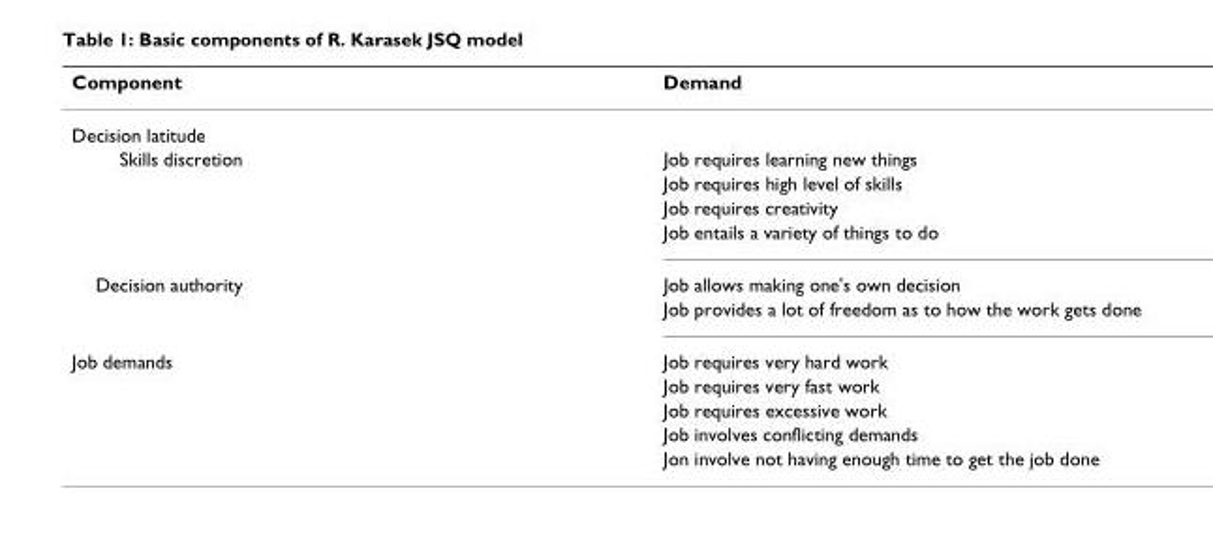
<table><thead><tr><td>Component</td><td>Demand</td></tr></thead><tbody><tr><td colspan="2">Decision latitude</td></tr><tr><td rowspan="4">Skills discretion</td><td>Job requires learning new things</td></tr><tr><td>Job requires high level of skills</td></tr><tr><td>Job requires creativity</td></tr><tr><td>Job entails a variety of things to do</td></tr><tr><td rowspan="2">Decision authority</td><td>Job allows making one&#x27;s own decision</td></tr><tr><td>Job provides a lot of freedom as to how the work gets done</td></tr><tr><td rowspan="5">Job demands</td><td>Job requires very hard work</td></tr><tr><td>Job requires very fast work</td></tr><tr><td>Job requires excessive work</td></tr><tr><td>Job involves conflicting demands</td></tr><tr><td>Jon involve not having enough time to get the job done</td></tr></tbody></table>